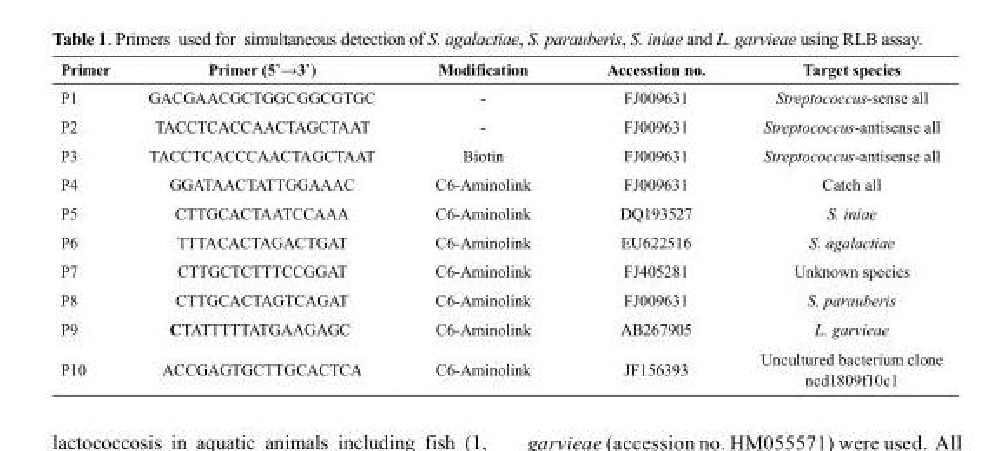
<table><thead><tr><td>Primer</td><td>Primer (5`→3`)</td><td>Modification</td><td>Accesstion no.</td><td>Target species</td></tr></thead><tbody><tr><td>P1</td><td>GACGAACGCTGGCGGCGTGC</td><td>-</td><td>FJ009631</td><td>Streptococcus-sense all</td></tr><tr><td>P2</td><td>TACCTCACCAACTAGCTAAT</td><td>-</td><td>FJ009631</td><td>Streptococcus-antisense all</td></tr><tr><td>P3</td><td>TACCTCACCCAACTAGCTAAT</td><td>Biotin</td><td>FJ009631</td><td>Streptococcus-antisense all</td></tr><tr><td>P4</td><td>GGATAACTATTGGAAAC</td><td>C6-Aminolink</td><td>FJ009631</td><td>Catch all</td></tr><tr><td>P5</td><td>CTTGCACTAATCCAAA</td><td>C6-Aminolink</td><td>DQ193527</td><td>S. iniae</td></tr><tr><td>P6</td><td>TTTACACTAGACTGAT</td><td>C6-Aminolink</td><td>EU622516</td><td>S. agalactiae</td></tr><tr><td>P7</td><td>CTTGCTCTTTCCGGAT</td><td>C6-Aminolink</td><td>FJ405281</td><td>Unknown species</td></tr><tr><td>P8</td><td>CTTGCACTAGTCAGAT</td><td>C6-Aminolink</td><td>FJ009631</td><td>S. parauberis</td></tr><tr><td>P9</td><td>CTATTTTTATGAAGAGC</td><td>C6-Aminolink</td><td>AB267905</td><td>L. garvieae</td></tr><tr><td>P10</td><td>ACCGAGTGCTTGCACTCA</td><td>C6-Aminolink</td><td>JF156393</td><td>Uncultured bacterium clone ncd1809f10c1</td></tr></tbody></table>